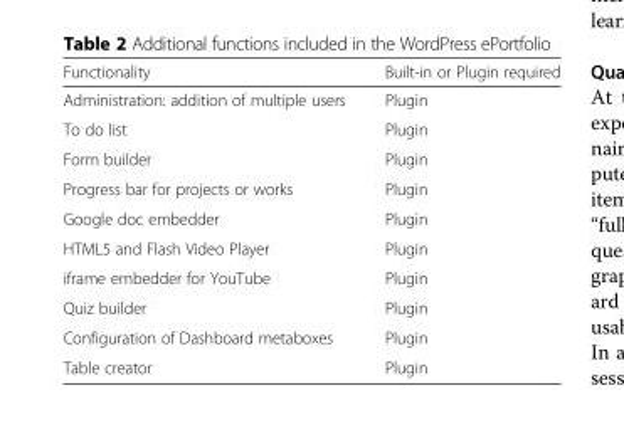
<table><thead><tr><td>Functionality</td><td>Built-in or Plugin required</td></tr></thead><tbody><tr><td>Administration: addition of multiple users</td><td>Plugin</td></tr><tr><td>To do list</td><td>Plugin</td></tr><tr><td>Form builder</td><td>Plugin</td></tr><tr><td>Progress bar for projects or works</td><td>Plugin</td></tr><tr><td>Google doc embedder</td><td>Plugin</td></tr><tr><td>HTML5 and Flash Video Player</td><td>Plugin</td></tr><tr><td>iframe embedder for YouTube</td><td>Plugin</td></tr><tr><td>Quiz builder</td><td>Plugin</td></tr><tr><td>Configuration of Dashboard metaboxes</td><td>Plugin</td></tr><tr><td>Table creator</td><td>Plugin</td></tr></tbody></table>